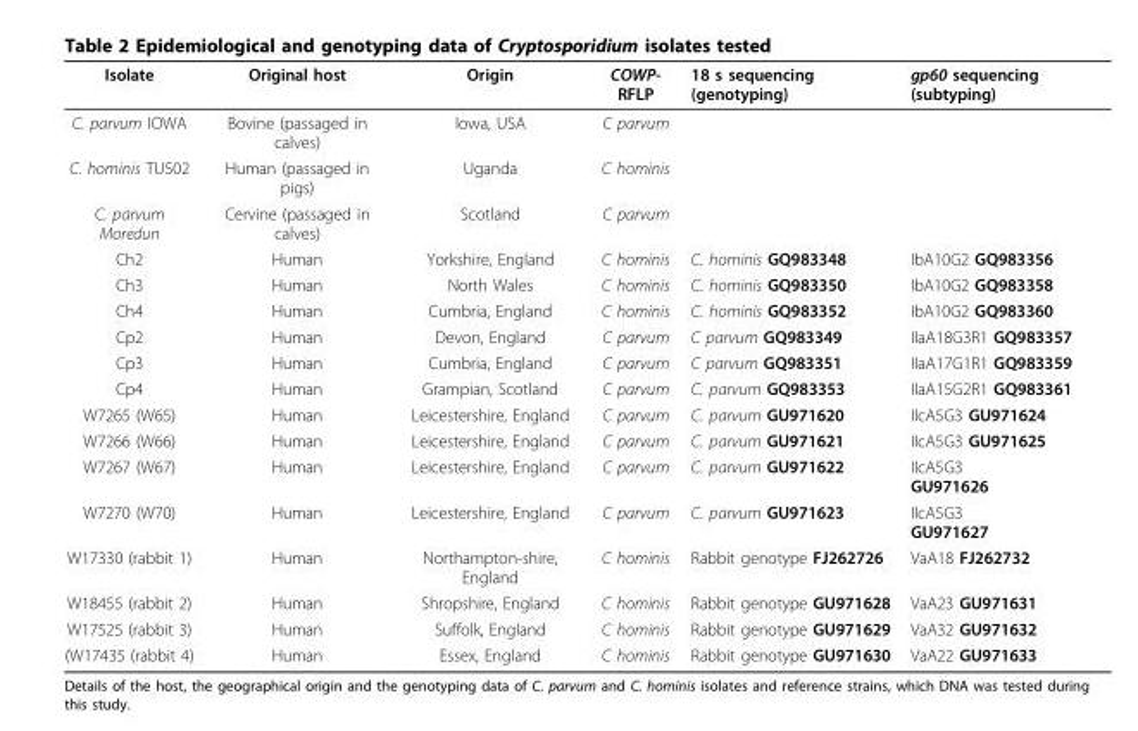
<table><thead><tr><td>Isolate</td><td>Original host</td><td>Origin</td><td>COWP- RFLP</td><td>18 s sequencing (genotyping)</td><td>gp60 sequencing (subtyping)</td></tr></thead><tbody><tr><td>C. parvum IOWA</td><td>Bovine (passaged in calves)</td><td>Iowa, USA</td><td>C parvum</td><td></td><td></td></tr><tr><td>C. hominis TU502</td><td>Human (passaged in pigs)</td><td>Uganda</td><td>C hominis</td><td></td><td></td></tr><tr><td>C. parvum Moredun</td><td>Cervine (passaged in calves)</td><td>Scotland</td><td>C parvum</td><td></td><td></td></tr><tr><td>Ch2</td><td>Human</td><td>Yorkshire, England</td><td>C hominis</td><td>C. hominis GQ983348</td><td>IbA10G2 GQ983356</td></tr><tr><td>Ch3</td><td>Human</td><td>North Wales</td><td>C hominis</td><td>C. hominis GQ983350</td><td>IbA10G2 GQ983358</td></tr><tr><td>Ch4</td><td>Human</td><td>Cumbria, England</td><td>C hominis</td><td>C. hominis GQ983352</td><td>IbA10G2 GQ983360</td></tr><tr><td>Cp2</td><td>Human</td><td>Devon, England</td><td>C parvum</td><td>C parvum GQ983349</td><td>IIaA18G3R1 GQ983357</td></tr><tr><td>Cp3</td><td>Human</td><td>Cumbria, England</td><td>C parvum</td><td>C parvum GQ983351</td><td>IIaA17G1R1 GQ983359</td></tr><tr><td>Cp4</td><td>Human</td><td>Grampian, Scotland</td><td>C parvum</td><td>C. parvum GQ983353</td><td>IIaA15G2R1 GQ983361</td></tr><tr><td>W7265 (W65)</td><td>Human</td><td>Leicestershire, England</td><td>C parvum</td><td>C. parvum GU971620</td><td>IIcA5G3 GU971624</td></tr><tr><td>W7266 (W66)</td><td>Human</td><td>Leicestershire, England</td><td>C parvum</td><td>C. parvum GU971621</td><td>IIcA5G3 GU971625</td></tr><tr><td>W7267 (W67)</td><td>Human</td><td>Leicestershire, England</td><td>C parvum</td><td>C. parvum GU971622</td><td>IIcA5G3 GU971626</td></tr><tr><td>W7270 (W70)</td><td>Human</td><td>Leicestershire, England</td><td>C parvum</td><td>C. parvum GU971623</td><td>IIcA5G3 GU971627</td></tr><tr><td>W17330 (rabbit 1)</td><td>Human</td><td>Northampton-shire, England</td><td>C hominis</td><td>Rabbit genotype FJ262726</td><td>VaA18 FJ262732</td></tr><tr><td>W18455 (rabbit 2)</td><td>Human</td><td>Shropshire, England</td><td>C hominis</td><td>Rabbit genotype GU971628</td><td>VaA23 GU971631</td></tr><tr><td>W17525 (rabbit 3)</td><td>Human</td><td>Suffolk, England</td><td>C hominis</td><td>Rabbit genotype GU971629</td><td>VaA32 GU971632</td></tr><tr><td>(W17435 (rabbit 4)</td><td>Human</td><td>Essex, England</td><td>C hominis</td><td>Rabbit genotype GU971630</td><td>VaA22 GU971633</td></tr></tbody></table>